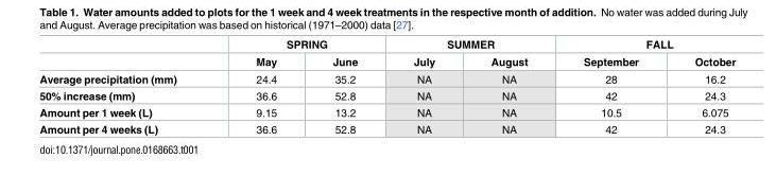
<table><thead><tr><td rowspan="2"></td><td colspan="2">SPRING</td><td colspan="2">SUMMER</td><td colspan="2">FALL</td></tr><tr><td>May</td><td>June</td><td>July</td><td>August</td><td>September</td><td>October</td></tr></thead><tbody><tr><td>Average precipitation (mm)</td><td>24.4</td><td>35.2</td><td>NA</td><td>NA</td><td>28</td><td>16.2</td></tr><tr><td>50% increase (mm)</td><td>36.6</td><td>52.8</td><td>NA</td><td>NA</td><td>42</td><td>24.3</td></tr><tr><td>Amount per 1 week (L)</td><td>9.15</td><td>13.2</td><td>NA</td><td>NA</td><td>10.5</td><td>6.075</td></tr><tr><td>Amount per 4 weeks (L)</td><td>36.6</td><td>52.8</td><td>NA</td><td>NA</td><td>42</td><td>24.3</td></tr></tbody></table>